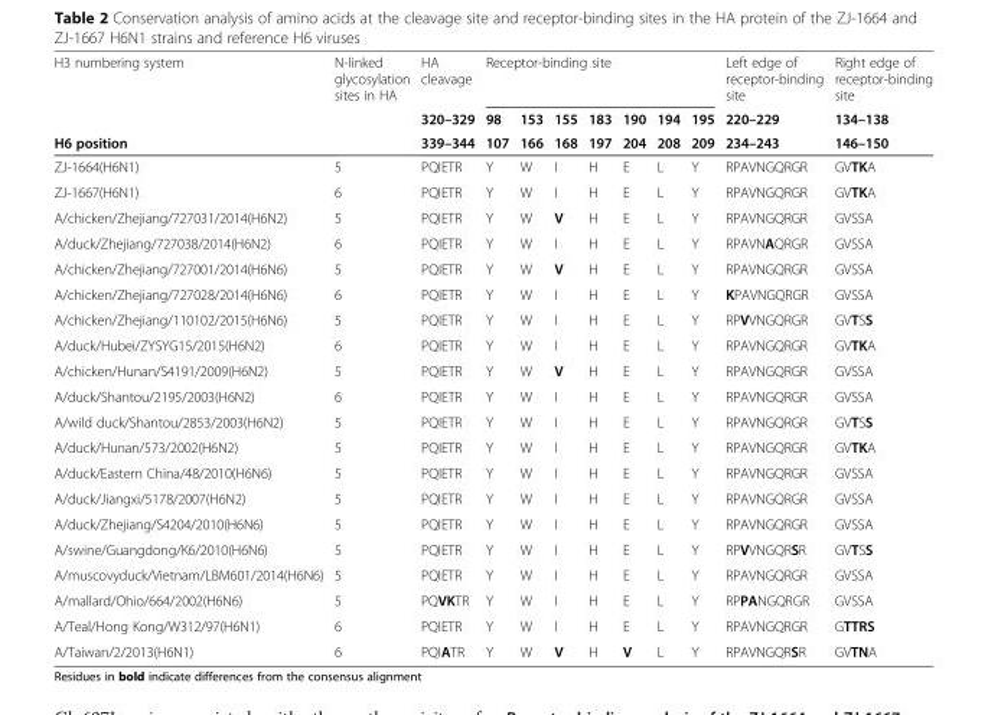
<table><thead><tr><td rowspan="3">H3 numbering system H6 position</td><td rowspan="3">N-linked glycosylation sites in HA</td><td rowspan="3">HA cleavage 320–329 339–344</td><td colspan="7">Receptor-binding site</td><td rowspan="3">Left edge of receptor-binding site 220–229 234–243</td><td rowspan="3">Right edge of receptor-binding site 134–138 146–150</td></tr><tr><td rowspan="2">98 107</td><td rowspan="2">153 166</td><td rowspan="2">155 168</td><td rowspan="2">183 197</td><td rowspan="2">190 204</td><td rowspan="2">194 208</td><td rowspan="2">195 209</td></tr><tr></tr></thead><tbody><tr><td>ZJ-1664(H6N1)</td><td>5</td><td>PQIETR</td><td>Y</td><td>W</td><td>I</td><td>H</td><td>E</td><td>L</td><td>Y</td><td>RPAVNGQRGR</td><td>GVTKA</td></tr><tr><td>ZJ-1667(H6N1)</td><td>6</td><td>PQIETR</td><td>Y</td><td>W</td><td>I</td><td>H</td><td>E</td><td>L</td><td>Y</td><td>RPAVNGQRGR</td><td>GVTKA</td></tr><tr><td>A/chicken/Zhejiang/727031/2014(H6N2)</td><td>5</td><td>PQIETR</td><td>Y</td><td>W</td><td>V</td><td>H</td><td>E</td><td>L</td><td>Y</td><td>RPAVNGQRGR</td><td>GVSSA</td></tr><tr><td>A/duck/Zhejiang/727038/2014(H6N2)</td><td>6</td><td>PQIETR</td><td>Y</td><td>W</td><td>I</td><td>H</td><td>E</td><td>L</td><td>Y</td><td>RPAVNAQRGR</td><td>GVSSA</td></tr><tr><td>A/chicken/Zhejiang/727001/2014(H6N6)</td><td>5</td><td>PQIETR</td><td>Y</td><td>W</td><td>V</td><td>H</td><td>E</td><td>L</td><td>Y</td><td>RPAVNGQRGR</td><td>GVSSA</td></tr><tr><td>A/chicken/Zhejiang/727028/2014(H6N6)</td><td>6</td><td>PQIETR</td><td>Y</td><td>W</td><td>I</td><td>H</td><td>E</td><td>L</td><td>Y</td><td>KPAVNGQRGR</td><td>GVSSA</td></tr><tr><td>A/chicken/Zhejiang/110102/2015(H6N6)</td><td>5</td><td>PQIETR</td><td>Y</td><td>W</td><td>I</td><td>H</td><td>E</td><td>L</td><td>Y</td><td>RPVVNGQRGR</td><td>GVTSS</td></tr><tr><td>A/duck/Hubei/ZYSYG15/2015(H6N2)</td><td>6</td><td>PQIETR</td><td>Y</td><td>W</td><td>I</td><td>H</td><td>E</td><td>L</td><td>Y</td><td>RPAVNGQRGR</td><td>GVTKA</td></tr><tr><td>A/chicken/Hunan/S4191/2009(H6N2)</td><td>5</td><td>PQIETR</td><td>Y</td><td>W</td><td>V</td><td>H</td><td>E</td><td>L</td><td>Y</td><td>RPAVNGQRGR</td><td>GVSSA</td></tr><tr><td>A/duck/Shantou/2195/2003(H6N2)</td><td>6</td><td>PQIETR</td><td>Y</td><td>W</td><td>I</td><td>H</td><td>E</td><td>L</td><td>Y</td><td>RPAVNGQRGR</td><td>GVSSA</td></tr><tr><td>A/wild duck/Shantou/2853/2003(H6N2)</td><td>5</td><td>PQIETR</td><td>Y</td><td>W</td><td>I</td><td>H</td><td>E</td><td>L</td><td>Y</td><td>RPAVNGQRGR</td><td>GVTSS</td></tr><tr><td>A/duck/Hunan/573/2002(H6N2)</td><td>5</td><td>PQIETR</td><td>Y</td><td>W</td><td>I</td><td>H</td><td>E</td><td>L</td><td>Y</td><td>RPAVNGQRGR</td><td>GVTKA</td></tr><tr><td>A/duck/Eastern China/48/2010(H6N6)</td><td>5</td><td>PQIETR</td><td>Y</td><td>W</td><td>I</td><td>H</td><td>E</td><td>L</td><td>Y</td><td>RPAVNGQRGR</td><td>GVSSA</td></tr><tr><td>A/duck/Jiangxi/5178/2007(H6N2)</td><td>5</td><td>PQIETR</td><td>Y</td><td>W</td><td>I</td><td>H</td><td>E</td><td>L</td><td>Y</td><td>RPAVNGQRGR</td><td>GVSSA</td></tr><tr><td>A/duck/Zhejiang/S4204/2010(H6N6)</td><td>5</td><td>PQIETR</td><td>Y</td><td>W</td><td>I</td><td>H</td><td>E</td><td>L</td><td>Y</td><td>RPAVNGQRGR</td><td>GVSSA</td></tr><tr><td>A/swine/Guangdong/K6/2010(H6N6)</td><td>5</td><td>PQIETR</td><td>Y</td><td>W</td><td>I</td><td>H</td><td>E</td><td>L</td><td>Y</td><td>RPVVNGQRSR</td><td>GVTSS</td></tr><tr><td>A/muscovyduck/Vietnam/LBM601/2014(H6N6)</td><td>5</td><td>PQIETR</td><td>Y</td><td>W</td><td>I</td><td>H</td><td>E</td><td>L</td><td>Y</td><td>RPAVNGQRGR</td><td>GVSSA</td></tr><tr><td>A/mallard/Ohio/664/2002(H6N6)</td><td>5</td><td>PQVKTR</td><td>Y</td><td>W</td><td>I</td><td>H</td><td>E</td><td>L</td><td>Y</td><td>RPPANGQRGR</td><td>GVSSA</td></tr><tr><td>A/Teal/Hong Kong/W312/97(H6N1)</td><td>6</td><td>PQIETR</td><td>Y</td><td>W</td><td>I</td><td>H</td><td>E</td><td>L</td><td>Y</td><td>RPAVNGQRGR</td><td>GTTRS</td></tr><tr><td>A/Taiwan/2/2013(H6N1)</td><td>6</td><td>PQIATR</td><td>Y</td><td>W</td><td>V</td><td>H</td><td>V</td><td>L</td><td>Y</td><td>RPAVNGQRSR</td><td>GVTNA</td></tr></tbody></table>